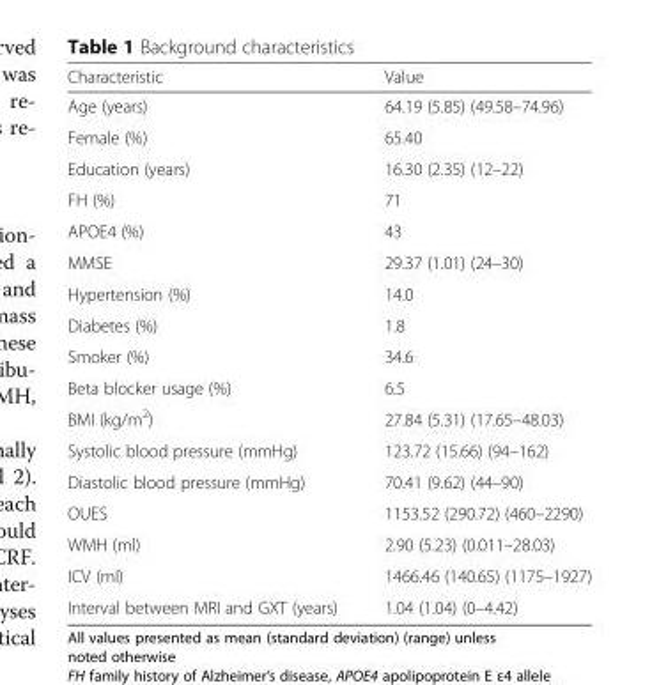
<table><thead><tr><td>Characteristic</td><td>Value</td></tr></thead><tbody><tr><td>Age (years)</td><td>64.19 (5.85) (49.58–74.96)</td></tr><tr><td>Female (%)</td><td>65.40</td></tr><tr><td>Education (years)</td><td>16.30 (2.35) (12–22)</td></tr><tr><td>FH (%)</td><td>71</td></tr><tr><td>APOE4 (%)</td><td>43</td></tr><tr><td>MMSE</td><td>29.37 (1.01) (24–30)</td></tr><tr><td>Hypertension (%)</td><td>14.0</td></tr><tr><td>Diabetes (%)</td><td>1.8</td></tr><tr><td>Smoker (%)</td><td>34.6</td></tr><tr><td>Beta blocker usage (%)</td><td>6.5</td></tr><tr><td>BMI (kg/m<sup>2</sup>)</td><td>27.84 (5.31) (17.65–48.03)</td></tr><tr><td>Systolic blood pressure (mmHg)</td><td>123.72 (15.66) (94–162)</td></tr><tr><td>Diastolic blood pressure (mmHg)</td><td>70.41 (9.62) (44–90)</td></tr><tr><td>OUES</td><td>1153.52 (290.72) (460–2290)</td></tr><tr><td>WMH (ml)</td><td>2.90 (5.23) (0.011–28.03)</td></tr><tr><td>ICV (ml)</td><td>1466.46 (140.65) (1175–1927)</td></tr><tr><td>Interval between MRI and GXT (years)</td><td>1.04 (1.04) (0–4.42)</td></tr></tbody></table>